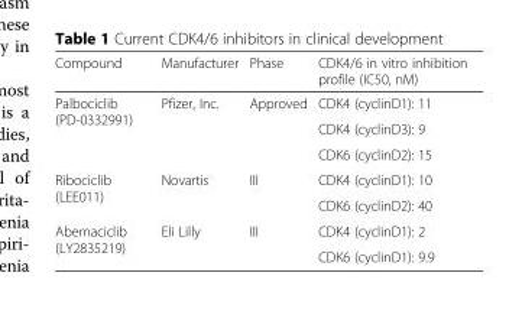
<table><thead><tr><td>Compound</td><td>Manufacturer</td><td>Phase</td><td>CDK4/6 in vitro inhibition profile (IC50, nM)</td></tr></thead><tbody><tr><td rowspan="3">Palbociclib (PD-0332991)</td><td rowspan="3">Pfizer, Inc.</td><td rowspan="3">Approved</td><td>CDK4 (cyclinD1): 11</td></tr><tr><td>CDK4 (cyclinD3): 9</td></tr><tr><td>CDK6 (cyclinD2): 15</td></tr><tr><td rowspan="2">Ribociclib (LEE011)</td><td rowspan="2">Novartis</td><td rowspan="2">III</td><td>CDK4 (cyclinD1): 10</td></tr><tr><td>CDK6 (cyclinD2): 40</td></tr><tr><td rowspan="2">Abemaciclib (LY2835219)</td><td rowspan="2">Eli Lilly</td><td rowspan="2">III</td><td>CDK4 (cyclinD1): 2</td></tr><tr><td>CDK6 (cyclinD1): 9.9</td></tr></tbody></table>